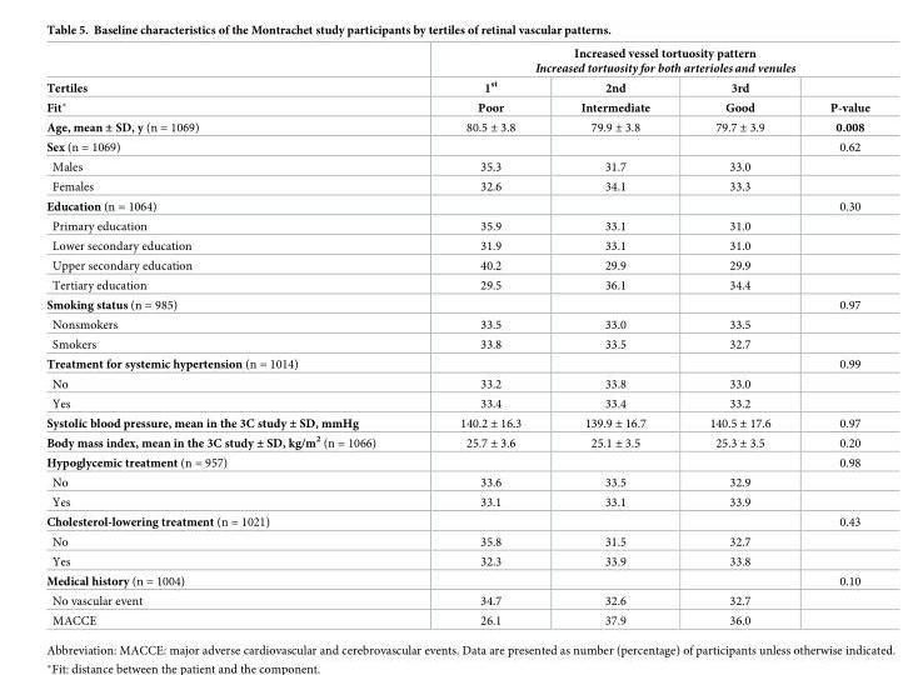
<table><thead><tr><td rowspan="3">Tertiles Fit*</td><td colspan="4">Increased vessel tortuosity pattern Increased tortuosity for both arteriolesand venules</td></tr><tr><td rowspan="2">1<sup>st</sup> Poor</td><td rowspan="2">2nd Intermediate</td><td rowspan="2">3rd Good</td><td rowspan="2">P-value</td></tr><tr></tr></thead><tbody><tr><td>Age, mean ± SD, y (n = 1069)</td><td>80.5 ± 3.8</td><td>79.9 ± 3.8</td><td>79.7 ± 3.9</td><td>0.008</td></tr><tr><td>Sex (n = 1069)</td><td></td><td></td><td></td><td>0.62</td></tr><tr><td>Males</td><td>35.3</td><td>31.7</td><td>33.0</td><td></td></tr><tr><td>Females</td><td>32.6</td><td>34.1</td><td>33.3</td><td></td></tr><tr><td>Education (n = 1064)</td><td></td><td></td><td></td><td>0.30</td></tr><tr><td>Primary education</td><td>35.9</td><td>33.1</td><td>31.0</td><td></td></tr><tr><td>Lower secondary education</td><td>31.9</td><td>33.1</td><td>31.0</td><td></td></tr><tr><td>Upper secondary education</td><td>40.2</td><td>29.9</td><td>29.9</td><td></td></tr><tr><td>Tertiary education</td><td>29.5</td><td>36.1</td><td>34.4</td><td></td></tr><tr><td>Smoking status (n = 985)</td><td></td><td></td><td></td><td>0.97</td></tr><tr><td>Nonsmokers</td><td>33.5</td><td>33.0</td><td>33.5</td><td></td></tr><tr><td>Smokers</td><td>33.8</td><td>33.5</td><td>32.7</td><td></td></tr><tr><td>Treatment for systemic hypertension (n = 1014)</td><td></td><td></td><td></td><td>0.99</td></tr><tr><td>No</td><td>33.2</td><td>33.8</td><td>33.0</td><td></td></tr><tr><td>Yes</td><td>33.4</td><td>33.4</td><td>33.2</td><td></td></tr><tr><td>Systolic blood pressure, mean in the 3C study ± SD, mmHg</td><td>140.2 ± 16.3</td><td>139.9 ± 16.7</td><td>140.5 ± 17.6</td><td>0.97</td></tr><tr><td>Body mass index, mean in the 3C study ± SD, kg/m<sup>2</sup> (n = 1066)</td><td>25.7 ± 3.6</td><td>25.1 ± 3.5</td><td>25.3 ± 3.5</td><td>0.20</td></tr><tr><td>Hypoglycemic treatment (n = 957)</td><td></td><td></td><td></td><td>0.98</td></tr><tr><td>No</td><td>33.6</td><td>33.5</td><td>32.9</td><td></td></tr><tr><td>Yes</td><td>33.1</td><td>33.1</td><td>33.9</td><td></td></tr><tr><td>Cholesterol-lowering treatment (n = 1021)</td><td></td><td></td><td></td><td>0.43</td></tr><tr><td>No</td><td>35.8</td><td>31.5</td><td>32.7</td><td></td></tr><tr><td>Yes</td><td>32.3</td><td>33.9</td><td>33.8</td><td></td></tr><tr><td>Medical history (n = 1004)</td><td></td><td></td><td></td><td>0.10</td></tr><tr><td>No vascular event</td><td>34.7</td><td>32.6</td><td>32.7</td><td></td></tr><tr><td>MACCE</td><td>26.1</td><td>37.9</td><td>36.0</td><td></td></tr></tbody></table>